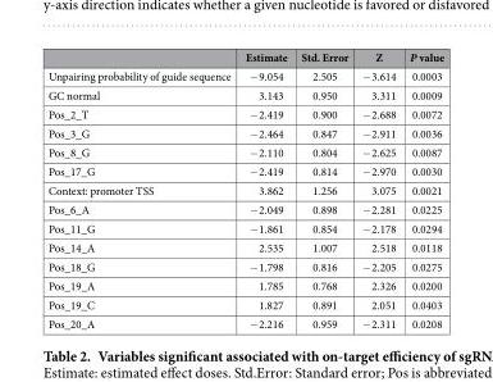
<table><thead><tr><td></td><td>Estimate</td><td>Std. Error</td><td>Z</td><td>P value</td></tr></thead><tbody><tr><td>Unpairing probability of guide sequence</td><td>− 9.054</td><td>2.505</td><td>− 3.614</td><td>0.0003</td></tr><tr><td>GC normal</td><td>3.143</td><td>0.950</td><td>3.311</td><td>0.0009</td></tr><tr><td>Pos_2_T</td><td>− 2.419</td><td>0.900</td><td>− 2.688</td><td>0.0072</td></tr><tr><td>Pos_3_G</td><td>− 2.464</td><td>0.847</td><td>− 2.911</td><td>0.0036</td></tr><tr><td>Pos_8_G</td><td>− 2.110</td><td>0.804</td><td>− 2.625</td><td>0.0087</td></tr><tr><td>Pos_17_G</td><td>− 2.419</td><td>0.814</td><td>− 2.970</td><td>0.0030</td></tr><tr><td>Context: promoter TSS</td><td>3.862</td><td>1.256</td><td>3.075</td><td>0.0021</td></tr><tr><td>Pos_6_A</td><td>− 2.049</td><td>0.898</td><td>− 2.281</td><td>0.0225</td></tr><tr><td>Pos_11_G</td><td>− 1.861</td><td>0.854</td><td>− 2.178</td><td>0.0294</td></tr><tr><td>Pos_14_A</td><td>2.535</td><td>1.007</td><td>2.518</td><td>0.0118</td></tr><tr><td>Pos_18_G</td><td>− 1.798</td><td>0.816</td><td>− 2.205</td><td>0.0275</td></tr><tr><td>Pos_19_A</td><td>1.785</td><td>0.768</td><td>2.326</td><td>0.0200</td></tr><tr><td>Pos_19_C</td><td>1.827</td><td>0.891</td><td>2.051</td><td>0.0403</td></tr><tr><td>Pos_20_A</td><td>− 2.216</td><td>0.959</td><td>− 2.311</td><td>0.0208</td></tr></tbody></table>